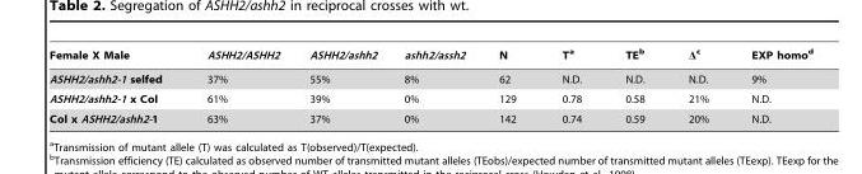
<table><thead><tr><td>Female X Male</td><td>ASHH2/ASHH2</td><td>ASHH2/ashh2</td><td>ashh2/assh2</td><td>N</td><td>T<sup>a</sup></td><td>TE<sup>b</sup></td><td>Δ<sup>c</sup></td><td>EXP homo<sup>d</sup></td></tr></thead><tbody><tr><td>ASHH2/ashh2-1 selfed</td><td>37%</td><td>55%</td><td>8%</td><td>62</td><td>N.D.</td><td>N.D.</td><td>N.D.</td><td>9%</td></tr><tr><td>ASHH2/ashh2-1 x Col</td><td>61%</td><td>39%</td><td>0%</td><td>129</td><td>0.78</td><td>0.58</td><td>21%</td><td>N.D.</td></tr><tr><td>Col x ASHH2/ashh2-1</td><td>63%</td><td>37%</td><td>0%</td><td>142</td><td>0.74</td><td>0.59</td><td>20%</td><td>N.D.</td></tr></tbody></table>